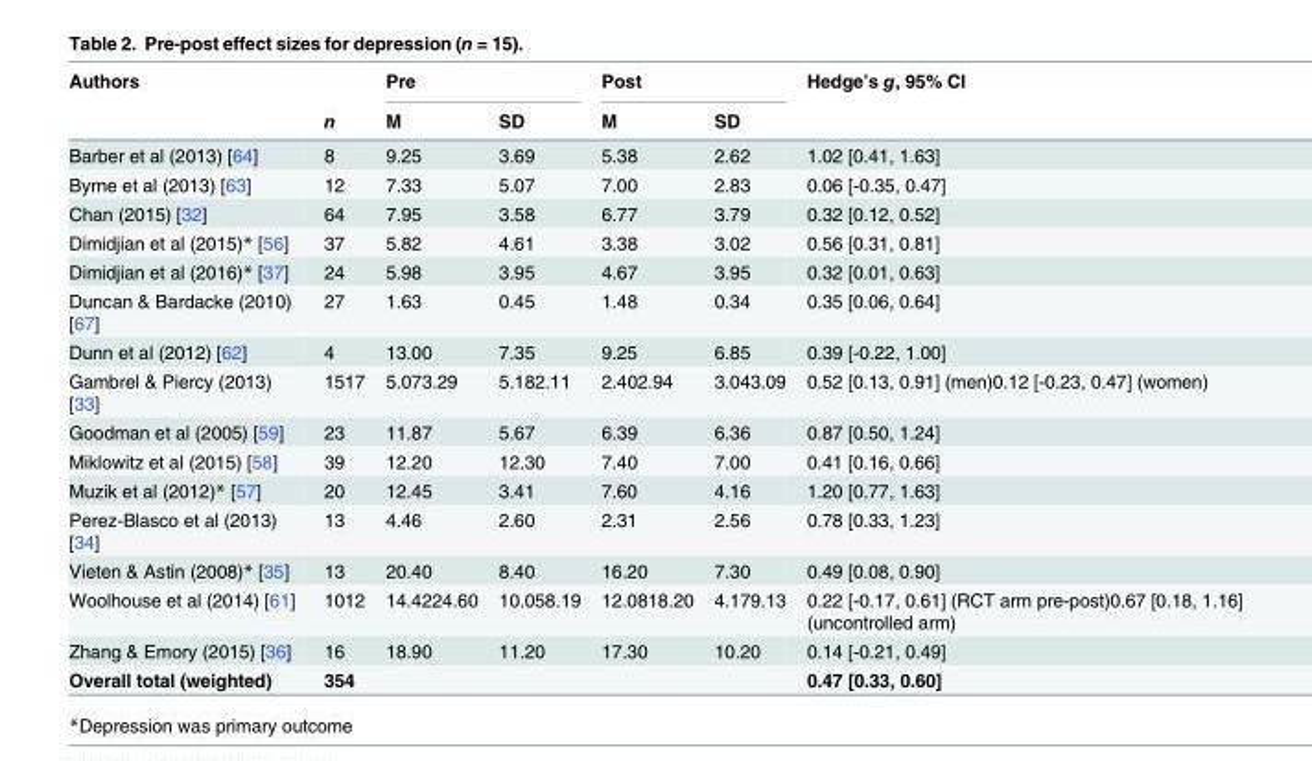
<table><thead><tr><td rowspan="2">Authors</td><td rowspan="2">n</td><td colspan="2">Pre</td><td colspan="2">Post</td><td rowspan="2">Hedge’s g, 95% CI</td></tr><tr><td>M</td><td>SD</td><td>M</td><td>SD</td></tr></thead><tbody><tr><td>Barber et al (2013) [64]</td><td>8</td><td>9.25</td><td>3.69</td><td>5.38</td><td>2.62</td><td>1.02 [0.41, 1.63]</td></tr><tr><td>Byrne et al (2013) [63]</td><td>12</td><td>7.33</td><td>5.07</td><td>7.00</td><td>2.83</td><td>0.06 [-0.35, 0.47]</td></tr><tr><td>Chan (2015) [32]</td><td>64</td><td>7.95</td><td>3.58</td><td>6.77</td><td>3.79</td><td>0.32 [0.12, 0.52]</td></tr><tr><td>Dimidjian et al (2015)* [56]</td><td>37</td><td>5.82</td><td>4.61</td><td>3.38</td><td>3.02</td><td>0.56 [0.31, 0.81]</td></tr><tr><td>Dimidjian et al (2016)* [37]</td><td>24</td><td>5.98</td><td>3.95</td><td>4.67</td><td>3.95</td><td>0.32 [0.01, 0.63]</td></tr><tr><td>Duncan &amp; Bardacke (2010) [67]</td><td>27</td><td>1.63</td><td>0.45</td><td>1.48</td><td>0.34</td><td>0.35 [0.06, 0.64]</td></tr><tr><td>Dunn et al (2012) [62]</td><td>4</td><td>13.00</td><td>7.35</td><td>9.25</td><td>6.85</td><td>0.39 [-0.22, 1.00]</td></tr><tr><td>Gambrel &amp; Piercy (2013) [33]</td><td>1517</td><td>5.073.29</td><td>5.182.11</td><td>2.402.94</td><td>3.043.09</td><td>0.52 [0.13, 0.91] (men)0.12 [-0.23, 0.47] (women)</td></tr><tr><td>Goodman et al (2005) [59]</td><td>23</td><td>11.87</td><td>5.67</td><td>6.39</td><td>6.36</td><td>0.87 [0.50, 1.24]</td></tr><tr><td>Miklowitz et al (2015) [58]</td><td>39</td><td>12.20</td><td>12.30</td><td>7.40</td><td>7.00</td><td>0.41 [0.16, 0.66]</td></tr><tr><td>Muzik et al (2012)* [57]</td><td>20</td><td>12.45</td><td>3.41</td><td>7.60</td><td>4.16</td><td>1.20 [0.77, 1.63]</td></tr><tr><td>Perez-Blasco et al (2013) [34]</td><td>13</td><td>4.46</td><td>2.60</td><td>2.31</td><td>2.56</td><td>0.78 [0.33, 1.23]</td></tr><tr><td>Vieten &amp; Astin (2008)* [35]</td><td>13</td><td>20.40</td><td>8.40</td><td>16.20</td><td>7.30</td><td>0.49 [0.08, 0.90]</td></tr><tr><td>Woolhouse et al (2014) [61]</td><td>1012</td><td>14.4224.60</td><td>10.058.19</td><td>12.0818.20</td><td>4.179.13</td><td>0.22 [-0.17, 0.61] (RCT arm pre-post)0.67 [0.18, 1.16] (uncontrolled arm)</td></tr><tr><td>Zhang &amp; Emory (2015) [36]</td><td>16</td><td>18.90</td><td>11.20</td><td>17.30</td><td>10.20</td><td>0.14 [-0.21, 0.49]</td></tr><tr><td>Overall total (weighted)</td><td>354</td><td></td><td></td><td></td><td></td><td>0.47 [0.33, 0.60]</td></tr></tbody></table>